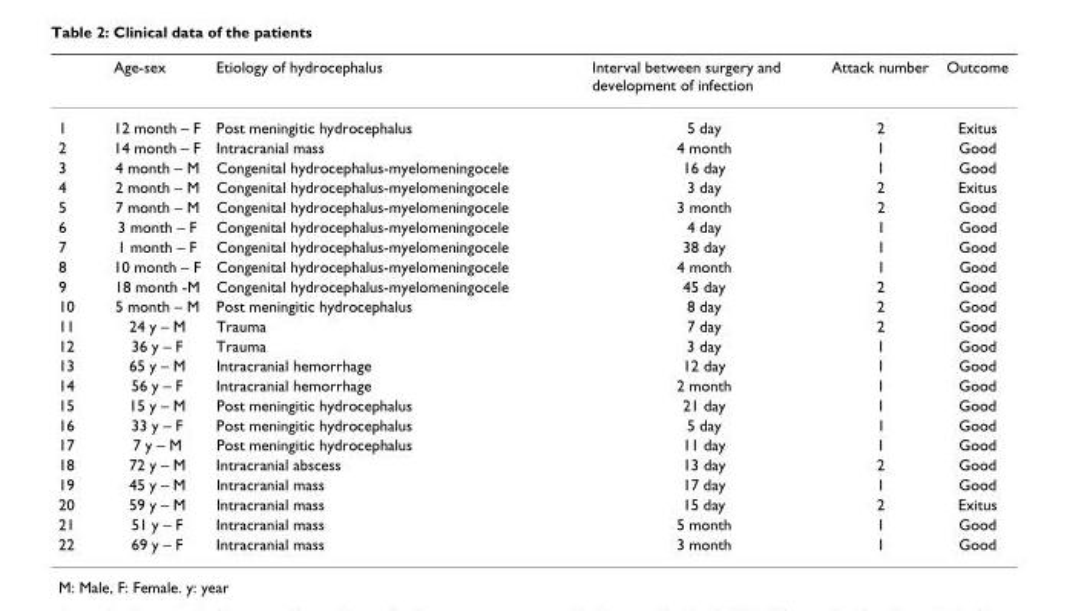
<table><thead><tr><td></td><td>Age-sex</td><td>Etiology of hydrocephalus</td><td>Interval between surgery and development of infection</td><td>Attack number</td><td>Outcome</td></tr></thead><tbody><tr><td>1</td><td>12 month – F</td><td>Post meningitic hydrocephalus</td><td>5 day</td><td>2</td><td>Exitus</td></tr><tr><td>2</td><td>14 month – F</td><td>Intracranial mass</td><td>4 month</td><td>1</td><td>Good</td></tr><tr><td>3</td><td>4 month – M</td><td>Congenital hydrocephalus-myelomeningocele</td><td>16 day</td><td>1</td><td>Good</td></tr><tr><td>4</td><td>2 month – M</td><td>Congenital hydrocephalus-myelomeningocele</td><td>3 day</td><td>2</td><td>Exitus</td></tr><tr><td>5</td><td>7 month – M</td><td>Congenital hydrocephalus-myelomeningocele</td><td>3 month</td><td>2</td><td>Good</td></tr><tr><td>6</td><td>3 month – F</td><td>Congenital hydrocephalus-myelomeningocele</td><td>4 day</td><td>1</td><td>Good</td></tr><tr><td>7</td><td>1 month – F</td><td>Congenital hydrocephalus-myelomeningocele</td><td>38 day</td><td>1</td><td>Good</td></tr><tr><td>8</td><td>10 month – F</td><td>Congenital hydrocephalus-myelomeningocele</td><td>4 month</td><td>1</td><td>Good</td></tr><tr><td>9</td><td>18 month -M</td><td>Congenital hydrocephalus-myelomeningocele</td><td>45 day</td><td>2</td><td>Good</td></tr><tr><td>10</td><td>5 month – M</td><td>Post meningitic hydrocephalus</td><td>8 day</td><td>2</td><td>Good</td></tr><tr><td>11</td><td>24 y – M</td><td>Trauma</td><td>7 day</td><td>2</td><td>Good</td></tr><tr><td>12</td><td>36 y – F</td><td>Trauma</td><td>3 day</td><td>1</td><td>Good</td></tr><tr><td>13</td><td>65 y – M</td><td>Intracranial hemorrhage</td><td>12 day</td><td>1</td><td>Good</td></tr><tr><td>14</td><td>56 y – F</td><td>Intracranial hemorrhage</td><td>2 month</td><td>1</td><td>Good</td></tr><tr><td>15</td><td>15 y – M</td><td>Post meningitic hydrocephalus</td><td>21 day</td><td>1</td><td>Good</td></tr><tr><td>16</td><td>33 y – F</td><td>Post meningitic hydrocephalus</td><td>5 day</td><td>1</td><td>Good</td></tr><tr><td>17</td><td>7 y – M</td><td>Post meningitic hydrocephalus</td><td>11 day</td><td>1</td><td>Good</td></tr><tr><td>18</td><td>72 y – M</td><td>Intracranial abscess</td><td>13 day</td><td>2</td><td>Good</td></tr><tr><td>19</td><td>45 y – M</td><td>Intracranial mass</td><td>17 day</td><td>1</td><td>Good</td></tr><tr><td>20</td><td>59 y – M</td><td>Intracranial mass</td><td>15 day</td><td>2</td><td>Exitus</td></tr><tr><td>21</td><td>51 y – F</td><td>Intracranial mass</td><td>5 month</td><td>1</td><td>Good</td></tr><tr><td>22</td><td>69 y – F</td><td>Intracranial mass</td><td>3 month</td><td>1</td><td>Good</td></tr></tbody></table>